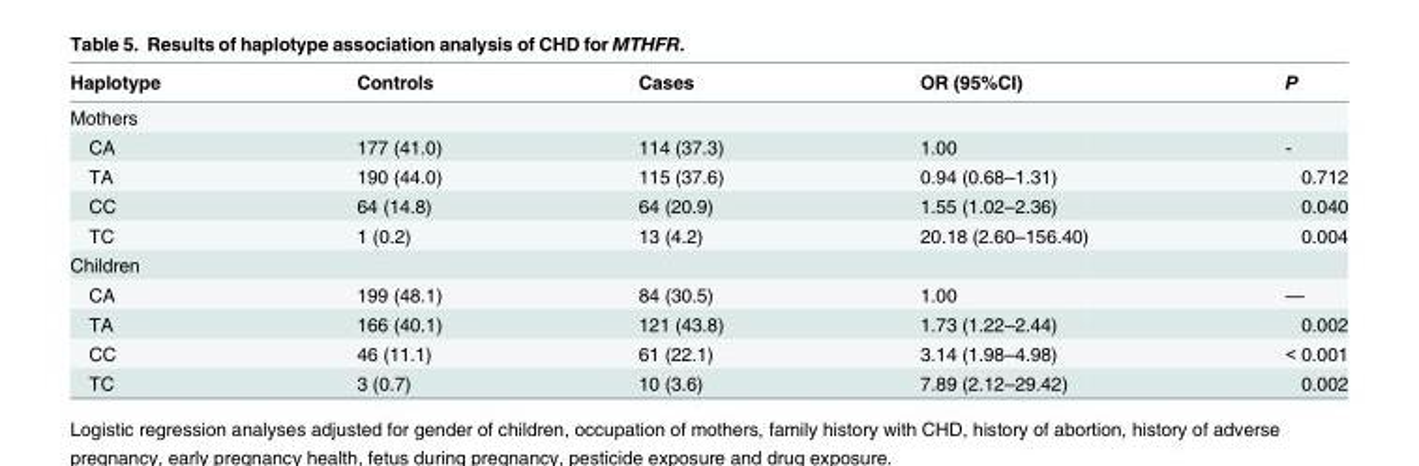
<table><thead><tr><td>Haplotype</td><td>Controls</td><td>Cases</td><td>OR (95%CI)</td><td>P</td></tr></thead><tbody><tr><td colspan="5">Mothers</td></tr><tr><td>CA</td><td>177 (41.0)</td><td>114 (37.3)</td><td>1.00</td><td>-</td></tr><tr><td>TA</td><td>190 (44.0)</td><td>115 (37.6)</td><td>0.94 (0.68–1.31)</td><td>0.712</td></tr><tr><td>CC</td><td>64 (14.8)</td><td>64 (20.9)</td><td>1.55 (1.02–2.36)</td><td>0.040</td></tr><tr><td>TC</td><td>1 (0.2)</td><td>13 (4.2)</td><td>20.18 (2.60–156.40)</td><td>0.004</td></tr><tr><td colspan="5">Children</td></tr><tr><td>CA</td><td>199 (48.1)</td><td>84 (30.5)</td><td>1.00</td><td>—</td></tr><tr><td>TA</td><td>166 (40.1)</td><td>121 (43.8)</td><td>1.73 (1.22–2.44)</td><td>0.002</td></tr><tr><td>CC</td><td>46 (11.1)</td><td>61 (22.1)</td><td>3.14 (1.98–4.98)</td><td>&lt; 0.001</td></tr><tr><td>TC</td><td>3 (0.7)</td><td>10 (3.6)</td><td>7.89 (2.12–29.42)</td><td>0.002</td></tr></tbody></table>